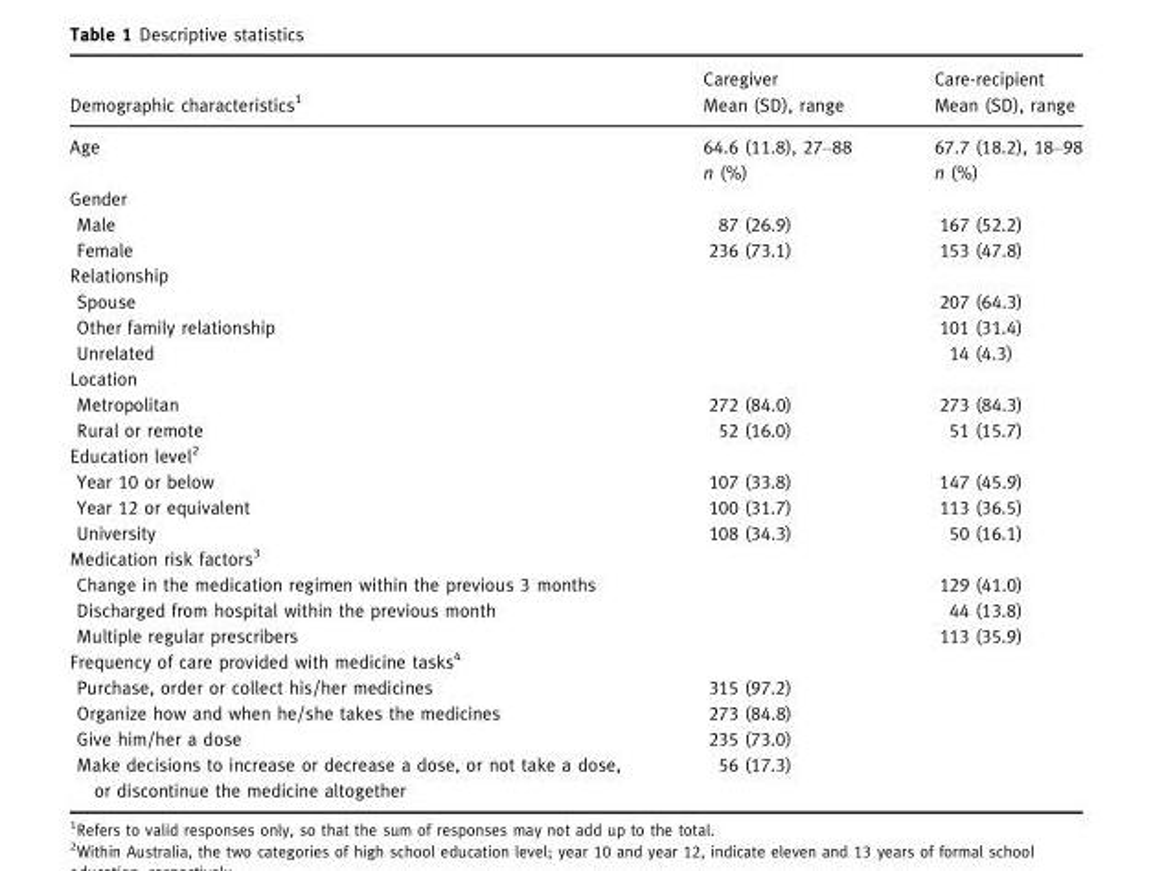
<table><thead><tr><td rowspan="2">Demographic characteristics1</td><td rowspan="2">Caregiver Mean (SD), range</td><td rowspan="2">Care-recipient Mean (SD), range</td></tr><tr></tr></thead><tbody><tr><td rowspan="2">Age</td><td>64.6 (11.8), 27–88</td><td>67.7 (18.2), 18–98</td></tr><tr><td>n (%)</td><td>n (%)</td></tr><tr><td colspan="3">Gender</td></tr><tr><td>Male</td><td>87 (26.9)</td><td>167 (52.2)</td></tr><tr><td>Female</td><td>236 (73.1)</td><td>153 (47.8)</td></tr><tr><td colspan="3">Relationship</td></tr><tr><td>Spouse</td><td></td><td>207 (64.3)</td></tr><tr><td>Other family relationship</td><td></td><td>101 (31.4)</td></tr><tr><td>Unrelated</td><td></td><td>14 (4.3)</td></tr><tr><td colspan="3">Location</td></tr><tr><td>Metropolitan</td><td>272 (84.0)</td><td>273 (84.3)</td></tr><tr><td>Rural or remote</td><td>52 (16.0)</td><td>51 (15.7)</td></tr><tr><td colspan="3">Education level2</td></tr><tr><td>Year 10 or below</td><td>107 (33.8)</td><td>147 (45.9)</td></tr><tr><td>Year 12 or equivalent</td><td>100 (31.7)</td><td>113 (36.5)</td></tr><tr><td>University</td><td>108 (34.3)</td><td>50 (16.1)</td></tr><tr><td colspan="3">Medication risk factors3</td></tr><tr><td>Change in the medication regimen within the previous 3 months</td><td></td><td>129 (41.0)</td></tr><tr><td>Discharged from hospital within the previous month</td><td></td><td>44 (13.8)</td></tr><tr><td>Multiple regular prescribers</td><td></td><td>113 (35.9)</td></tr><tr><td colspan="3">Frequency of care provided with medicine tasks4</td></tr><tr><td>Purchase, order or collect his/her medicines</td><td>315 (97.2)</td><td></td></tr><tr><td>Organize how and when he/she takes the medicines</td><td>273 (84.8)</td><td></td></tr><tr><td>Give him/her a dose</td><td>235 (73.0)</td><td></td></tr><tr><td>Make decisions to increase or decrease a dose, or not take a dose, or discontinue the medicine altogether</td><td>56 (17.3)</td><td></td></tr></tbody></table>